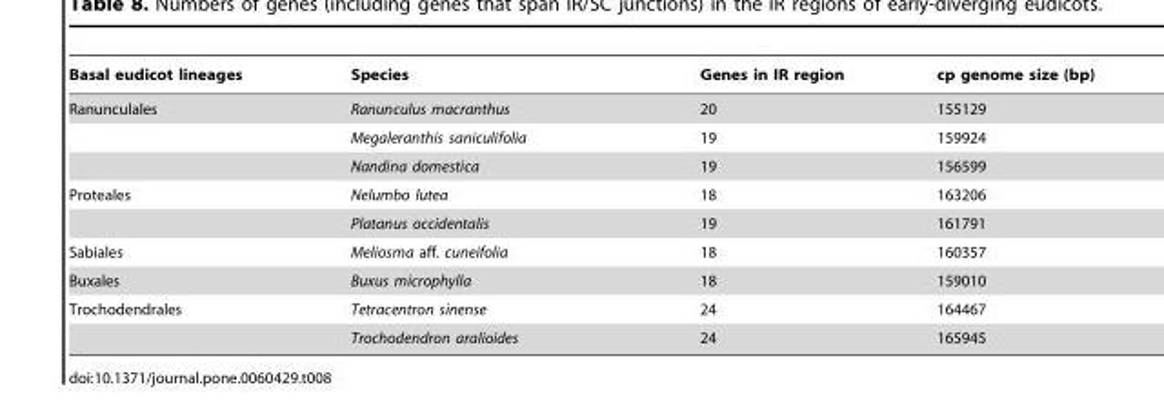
<table><thead><tr><td>Basal eudicot lineages</td><td>Species</td><td>Genes in IR region</td><td>cp genome size (bp)</td></tr></thead><tbody><tr><td rowspan="3">Ranunculales</td><td>Ranunculus macranthus</td><td>20</td><td>155129</td></tr><tr><td>Megaleranthis saniculifolia</td><td>19</td><td>159924</td></tr><tr><td>Nandina domestica</td><td>19</td><td>156599</td></tr><tr><td rowspan="2">Proteales</td><td>Nelumbo lutea</td><td>18</td><td>163206</td></tr><tr><td>Platanus occidentalis</td><td>19</td><td>161791</td></tr><tr><td>Sabiales</td><td>Meliosma aff. cuneifolia</td><td>18</td><td>160357</td></tr><tr><td>Buxales</td><td>Buxus microphylla</td><td>18</td><td>159010</td></tr><tr><td rowspan="2">Trochodendrales</td><td>Tetracentron sinense</td><td>24</td><td>164467</td></tr><tr><td>Trochodendron aralioides</td><td>24</td><td>165945</td></tr></tbody></table>